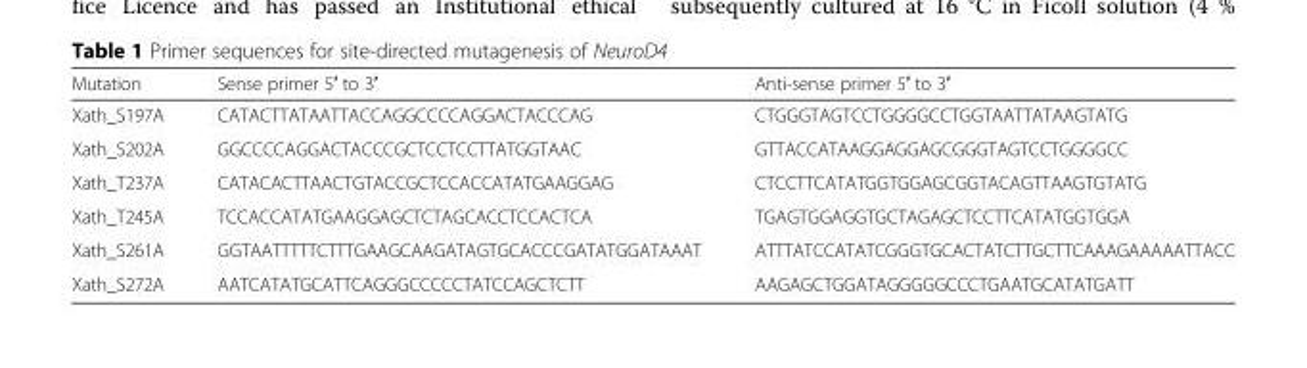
<table><thead><tr><td>Mutation</td><td>Sense primer 5′ to 3′</td><td>Anti-sense primer 5′ to 3′</td></tr></thead><tbody><tr><td>Xath_S197A</td><td>CATACTTATAATTACCAGGCCCCAGGACTACCCAG</td><td>CTGGGTAGTCCTGGGGCCTGGTAATTATAAGTATG</td></tr><tr><td>Xath_S202A</td><td>GGCCCCAGGACTACCCGCTCCTCCTTATGGTAAC</td><td>GTTACCATAAGGAGGAGCGGGTAGTCCTGGGGCC</td></tr><tr><td>Xath_T237A</td><td>CATACACTTAACTGTACCGCTCCACCATATGAAGGAG</td><td>CTCCTTCATATGGTGGAGCGGTACAGTTAAGTGTATG</td></tr><tr><td>Xath_T245A</td><td>TCCACCATATGAAGGAGCTCTAGCACCTCCACTCA</td><td>TGAGTGGAGGTGCTAGAGCTCCTTCATATGGTGGA</td></tr><tr><td>Xath_S261A</td><td>GGTAATTTTTCTTTGAAGCAAGATAGTGCACCCGATATGGATAAAT</td><td>ATTTATCCATATCGGGTGCACTATCTTGCTTCAAAGAAAAATTACC</td></tr><tr><td>Xath_S272A</td><td>AATCATATGCATTCAGGGCCCCCTATCCAGCTCTT</td><td>AAGAGCTGGATAGGGGGCCCTGAATGCATATGATT</td></tr></tbody></table>